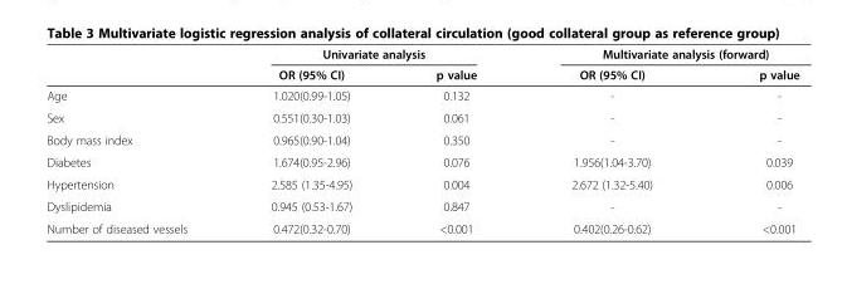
<table><thead><tr><td rowspan="2"></td><td colspan="2">Univariate analysis</td><td colspan="2">Multivariate analysis (forward)</td></tr><tr><td>OR (95% CI)</td><td>p value</td><td>OR (95% CI)</td><td>p value</td></tr></thead><tbody><tr><td>Age</td><td>1.020(0.99-1.05)</td><td>0.132</td><td>-</td><td>-</td></tr><tr><td>Sex</td><td>0.551(0.30-1.03)</td><td>0.061</td><td>-</td><td>-</td></tr><tr><td>Body mass index</td><td>0.965(0.90-1.04)</td><td>0.350</td><td>-</td><td>-</td></tr><tr><td>Diabetes</td><td>1.674(0.95-2.96)</td><td>0.076</td><td>1.956(1.04-3.70)</td><td>0.039</td></tr><tr><td>Hypertension</td><td>2.585 (1.35-4.95)</td><td>0.004</td><td>2.672 (1.32-5.40)</td><td>0.006</td></tr><tr><td>Dyslipidemia</td><td>0.945 (0.53-1.67)</td><td>0.847</td><td>-</td><td>-</td></tr><tr><td>Number of diseased vessels</td><td>0.472(0.32-0.70)</td><td>&lt;0.001</td><td>0.402(0.26-0.62)</td><td>&lt;0.001</td></tr></tbody></table>